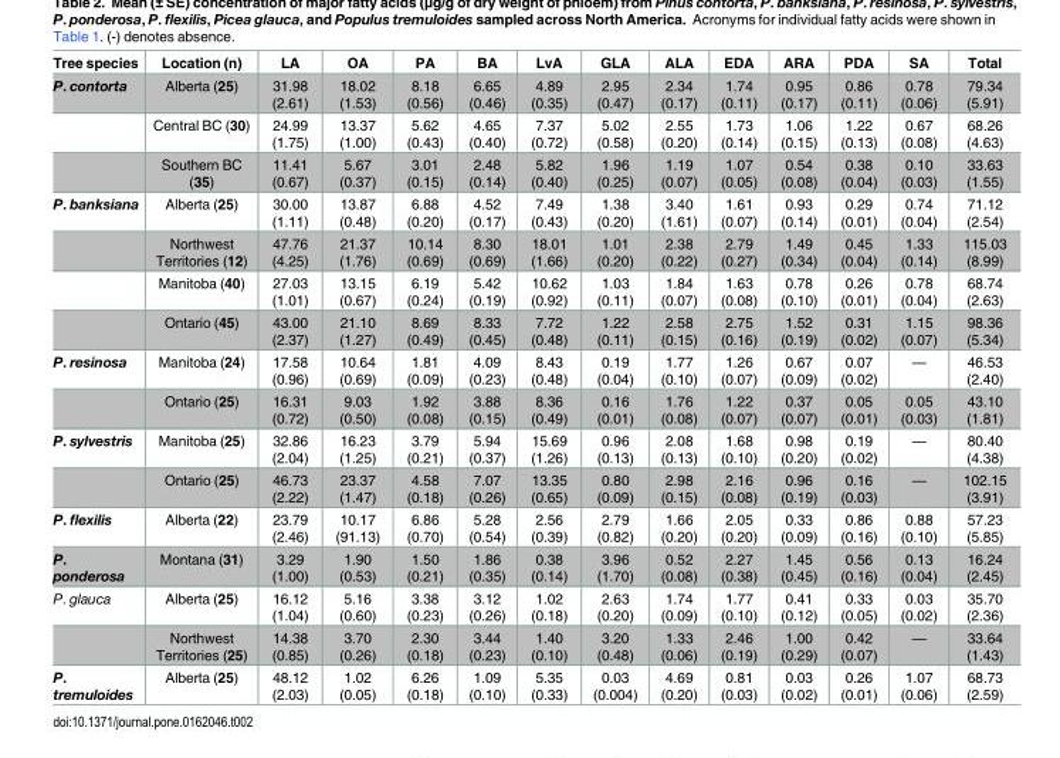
<table><thead><tr><td>Tree species</td><td>Location (n)</td><td>LA</td><td>OA</td><td>PA</td><td>BA</td><td>LvA</td><td>GLA</td><td>ALA</td><td>EDA</td><td>ARA</td><td>PDA</td><td>SA</td><td>Total</td></tr></thead><tbody><tr><td rowspan="3">P. contorta</td><td>Alberta (25)</td><td>31.98 (2.61)</td><td>18.02 (1.53)</td><td>8.18 (0.56)</td><td>6.65 (0.46)</td><td>4.89 (0.35)</td><td>2.95 (0.47)</td><td>2.34 (0.17)</td><td>1.74 (0.11)</td><td>0.95 (0.17)</td><td>0.86 (0.11)</td><td>0.78 (0.06)</td><td>79.34 (5.91)</td></tr><tr><td>Central BC (30)</td><td>24.99 (1.75)</td><td>13.37 (1.00)</td><td>5.62 (0.43)</td><td>4.65 (0.40)</td><td>7.37 (0.72)</td><td>5.02 (0.58)</td><td>2.55 (0.20)</td><td>1.73 (0.14)</td><td>1.06 (0.15)</td><td>1.22 (0.13)</td><td>0.67 (0.08)</td><td>68.26 (4.63)</td></tr><tr><td>Southern BC (35)</td><td>11.41 (0.67)</td><td>5.67 (0.37)</td><td>3.01 (0.15)</td><td>2.48 (0.14)</td><td>5.82 (0.40)</td><td>1.96 (0.25)</td><td>1.19 (0.07)</td><td>1.07 (0.05)</td><td>0.54 (0.08)</td><td>0.38 (0.04)</td><td>0.10 (0.03)</td><td>33.63 (1.55)</td></tr><tr><td rowspan="4">P. banksiana</td><td>Alberta (25)</td><td>30.00 (1.11)</td><td>13.87 (0.48)</td><td>6.88 (0.20)</td><td>4.52 (0.17)</td><td>7.49 (0.43)</td><td>1.38 (0.20)</td><td>3.40 (1.61)</td><td>1.61 (0.07)</td><td>0.93 (0.14)</td><td>0.29 (0.01)</td><td>0.74 (0.04)</td><td>71.12 (2.54)</td></tr><tr><td>Northwest Territories (12)</td><td>47.76 (4.25)</td><td>21.37 (1.76)</td><td>10.14 (0.69)</td><td>8.30 (0.69)</td><td>18.01 (1.66)</td><td>1.01 (0.20)</td><td>2.38 (0.22)</td><td>2.79 (0.27)</td><td>1.49 (0.34)</td><td>0.45 (0.04)</td><td>1.33 (0.14)</td><td>115.03 (8.99)</td></tr><tr><td>Manitoba (40)</td><td>27.03 (1.01)</td><td>13.15 (0.67)</td><td>6.19 (0.24)</td><td>5.42 (0.19)</td><td>10.62 (0.92)</td><td>1.03 (0.11)</td><td>1.84 (0.07)</td><td>1.63 (0.08)</td><td>0.78 (0.10)</td><td>0.26 (0.01)</td><td>0.78 (0.04)</td><td>68.74 (2.63)</td></tr><tr><td>Ontario (45)</td><td>43.00 (2.37)</td><td>21.10 (1.27)</td><td>8.69 (0.49)</td><td>8.33 (0.45)</td><td>7.72 (0.48)</td><td>1.22 (0.11)</td><td>2.58 (0.15)</td><td>2.75 (0.16)</td><td>1.52 (0.19)</td><td>0.31 (0.02)</td><td>1.15 (0.07)</td><td>98.36 (5.34)</td></tr><tr><td rowspan="2">P. resinosa</td><td>Manitoba (24)</td><td>17.58 (0.96)</td><td>10.64 (0.69)</td><td>1.81 (0.09)</td><td>4.09 (0.23)</td><td>8.43 (0.48)</td><td>0.19 (0.04)</td><td>1.77 (0.10)</td><td>1.26 (0.07)</td><td>0.67 (0.09)</td><td>0.07 (0.02)</td><td>—</td><td>46.53 (2.40)</td></tr><tr><td>Ontario (25)</td><td>16.31 (0.72)</td><td>9.03 (0.50)</td><td>1.92 (0.08)</td><td>3.88 (0.15)</td><td>8.36 (0.49)</td><td>0.16 (0.01)</td><td>1.76 (0.08)</td><td>1.22 (0.07)</td><td>0.37 (0.07)</td><td>0.05 (0.01)</td><td>0.05 (0.03)</td><td>43.10 (1.81)</td></tr><tr><td rowspan="2">P. sylvestris</td><td>Manitoba (25)</td><td>32.86 (2.04)</td><td>16.23 (1.25)</td><td>3.79 (0.21)</td><td>5.94 (0.37)</td><td>15.69 (1.26)</td><td>0.96 (0.13)</td><td>2.08 (0.13)</td><td>1.68 (0.10)</td><td>0.98 (0.20)</td><td>0.19 (0.02)</td><td>—</td><td>80.40 (4.38)</td></tr><tr><td>Ontario (25)</td><td>46.73 (2.22)</td><td>23.37 (1.47)</td><td>4.58 (0.18)</td><td>7.07 (0.26)</td><td>13.35 (0.65)</td><td>0.80 (0.09)</td><td>2.98 (0.15)</td><td>2.16 (0.08)</td><td>0.96 (0.19)</td><td>0.16 (0.03)</td><td>—</td><td>102.15 (3.91)</td></tr><tr><td>P. flexilis</td><td>Alberta (22)</td><td>23.79 (2.46)</td><td>10.17 (91.13)</td><td>6.86 (0.70)</td><td>5.28 (0.54)</td><td>2.56 (0.39)</td><td>2.79 (0.82)</td><td>1.66 (0.20)</td><td>2.05 (0.20)</td><td>0.33 (0.09)</td><td>0.86 (0.16)</td><td>0.88 (0.10)</td><td>57.23 (5.85)</td></tr><tr><td>P. ponderosa</td><td>Montana (31)</td><td>3.29 (1.00)</td><td>1.90 (0.53)</td><td>1.50 (0.21)</td><td>1.86 (0.35)</td><td>0.38 (0.14)</td><td>3.96 (1.70)</td><td>0.52 (0.08)</td><td>2.27 (0.38)</td><td>1.45 (0.45)</td><td>0.56 (0.16)</td><td>0.13 (0.04)</td><td>16.24 (2.45)</td></tr><tr><td rowspan="2">P. glauca</td><td>Alberta (25)</td><td>16.12 (1.04)</td><td>5.16 (0.60)</td><td>3.38 (0.23)</td><td>3.12 (0.26)</td><td>1.02 (0.18)</td><td>2.63 (0.20)</td><td>1.74 (0.09)</td><td>1.77 (0.10)</td><td>0.41 (0.12)</td><td>0.33 (0.05)</td><td>0.03 (0.02)</td><td>35.70 (2.36)</td></tr><tr><td>Northwest Territories (25)</td><td>14.38 (0.85)</td><td>3.70 (0.26)</td><td>2.30 (0.18)</td><td>3.44 (0.23)</td><td>1.40 (0.10)</td><td>3.20 (0.48)</td><td>1.33 (0.06)</td><td>2.46 (0.19)</td><td>1.00 (0.29)</td><td>0.42 (0.07)</td><td>—</td><td>33.64 (1.43)</td></tr><tr><td>P. tremuloides</td><td>Alberta (25)</td><td>48.12 (2.03)</td><td>1.02 (0.05)</td><td>6.26 (0.18)</td><td>1.09 (0.10)</td><td>5.35 (0.33)</td><td>0.03 (0.004)</td><td>4.69 (0.20)</td><td>0.81 (0.03)</td><td>0.03 (0.02)</td><td>0.26 (0.01)</td><td>1.07 (0.06)</td><td>68.73 (2.59)</td></tr></tbody></table>